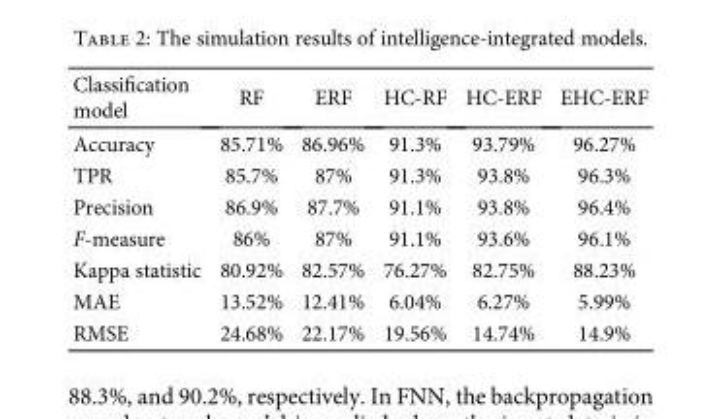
<table><thead><tr><td>Classification model</td><td>RF</td><td>ERF</td><td>HC-RF</td><td>HC-ERF</td><td>EHC-ERF</td></tr></thead><tbody><tr><td>Accuracy</td><td>85.71%</td><td>86.96%</td><td>91.3%</td><td>93.79%</td><td>96.27%</td></tr><tr><td>TPR</td><td>85.7%</td><td>87%</td><td>91.3%</td><td>93.8%</td><td>96.3%</td></tr><tr><td>Precision</td><td>86.9%</td><td>87.7%</td><td>91.1%</td><td>93.8%</td><td>96.4%</td></tr><tr><td>F-measure</td><td>86%</td><td>87%</td><td>91.1%</td><td>93.6%</td><td>96.1%</td></tr><tr><td>Kappa statistic</td><td>80.92%</td><td>82.57%</td><td>76.27%</td><td>82.75%</td><td>88.23%</td></tr><tr><td>MAE</td><td>13.52%</td><td>12.41%</td><td>6.04%</td><td>6.27%</td><td>5.99%</td></tr><tr><td>RMSE</td><td>24.68%</td><td>22.17%</td><td>19.56%</td><td>14.74%</td><td>14.9%</td></tr></tbody></table>